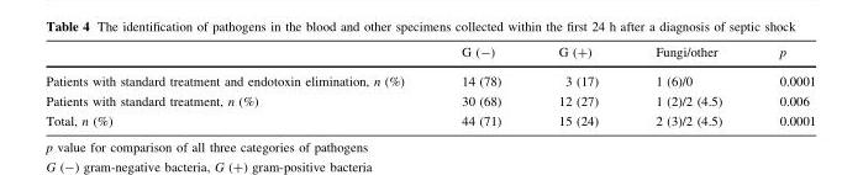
<table><thead><tr><td></td><td>G (-)</td><td>G (+)</td><td>Fungi/other</td><td>p</td></tr></thead><tbody><tr><td>Patients with standard treatment and endotoxin elimination, n (%)</td><td>14 (78)</td><td>3 (17)</td><td>1 (6)/0</td><td>0.0001</td></tr><tr><td>Patients with standard treatment, n (%)</td><td>30 (68)</td><td>12 (27)</td><td>1 (2)/2 (4.5)</td><td>0.006</td></tr><tr><td>Total, n (%)</td><td>44 (71)</td><td>15 (24)</td><td>2 (3)/2 (4.5)</td><td>0.0001</td></tr></tbody></table>